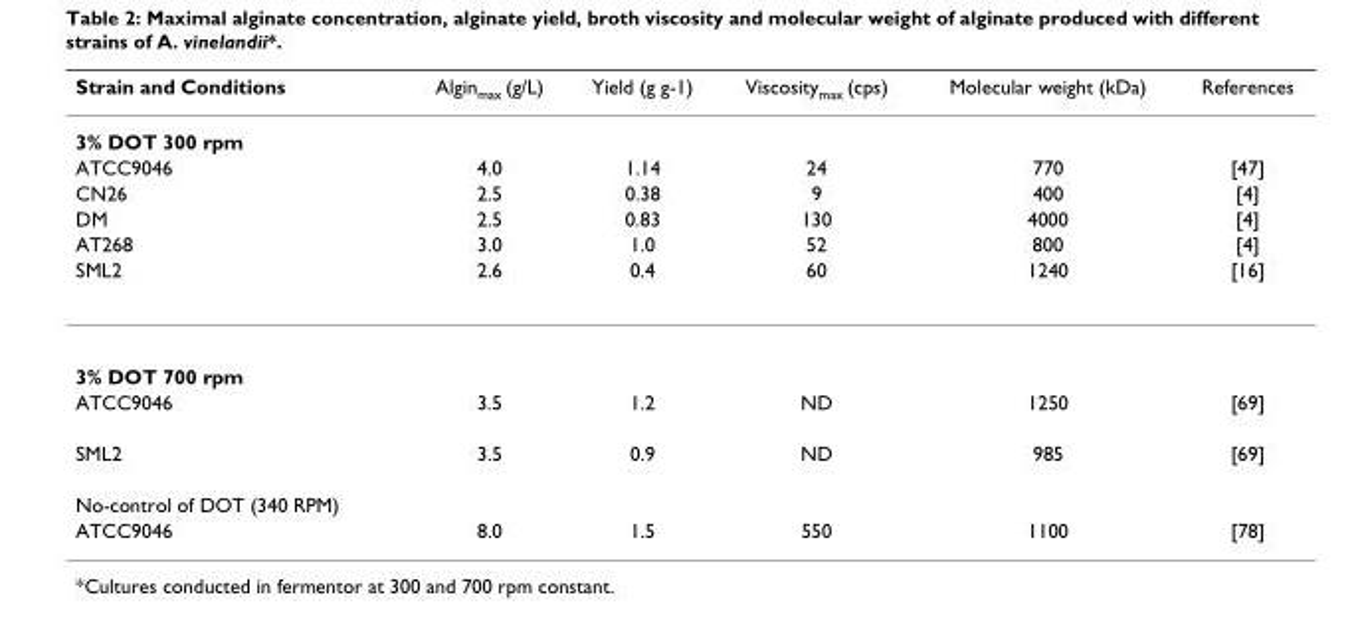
<table><thead><tr><td>Strain and Conditions</td><td>Algin<sub>max</sub> (g/L)</td><td>Yield (g g-1)</td><td>Viscosity<sub>max</sub> (cps)</td><td>Molecular weight (kDa)</td><td>References</td></tr></thead><tbody><tr><td colspan="6">3% DOT 300 rpm</td></tr><tr><td>ATCC9046</td><td>4.0</td><td>1.14</td><td>24</td><td>770</td><td>[47]</td></tr><tr><td>CN26</td><td>2.5</td><td>0.38</td><td>9</td><td>400</td><td>[4]</td></tr><tr><td>DM</td><td>2.5</td><td>0.83</td><td>130</td><td>4000</td><td>[4]</td></tr><tr><td>AT268</td><td>3.0</td><td>1.0</td><td>52</td><td>800</td><td>[4]</td></tr><tr><td>SML2</td><td>2.6</td><td>0.4</td><td>60</td><td>1240</td><td>[16]</td></tr><tr><td colspan="6">3% DOT 700 rpm</td></tr><tr><td>ATCC9046</td><td>3.5</td><td>1.2</td><td>ND</td><td>1250</td><td>[69]</td></tr><tr><td>SML2</td><td>3.5</td><td>0.9</td><td>ND</td><td>985</td><td>[69]</td></tr><tr><td colspan="6">No-control of DOT (340 RPM)</td></tr><tr><td>ATCC9046</td><td>8.0</td><td>1.5</td><td>550</td><td>1100</td><td>[78]</td></tr></tbody></table>